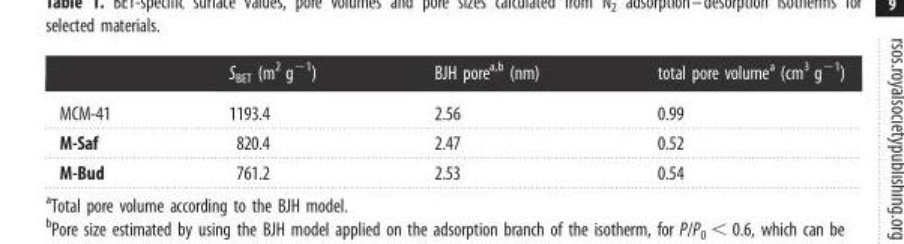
<table><thead><tr><td></td><td>S<sub>BET</sub> (m<sup>2</sup> g<sup>−1</sup>)</td><td>BJH pore<sup>a,b</sup> (nm)</td><td>total pore volume<sup>a</sup> (cm<sup>3</sup> g<sup>−1</sup>)</td></tr></thead><tbody><tr><td>MCM-41</td><td>1193.4</td><td>2.56</td><td>0.99</td></tr><tr><td>M-Saf</td><td>820.4</td><td>2.47</td><td>0.52</td></tr><tr><td>M-Bud</td><td>761.2</td><td>2.53</td><td>0.54</td></tr></tbody></table>